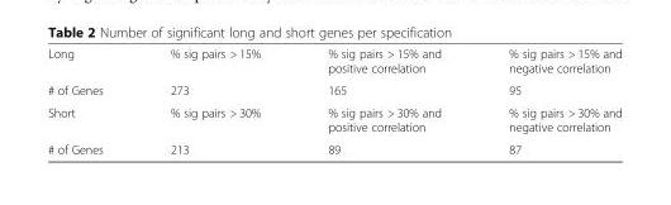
<table><tbody><tr><td>Long</td><td>% sig pairs &gt; 15%</td><td>% sig pairs &gt; 15% and positive correlation</td><td>% sig pairs &gt; 15% and negative correlation</td></tr><tr><td># of Genes</td><td>273</td><td>165</td><td>95</td></tr><tr><td>Short</td><td>% sig pairs &gt; 30%</td><td>% sig pairs &gt; 30% and positive correlation</td><td>% sig pairs &gt; 30% and negative correlation</td></tr><tr><td># of Genes</td><td>213</td><td>89</td><td>87</td></tr></tbody></table>